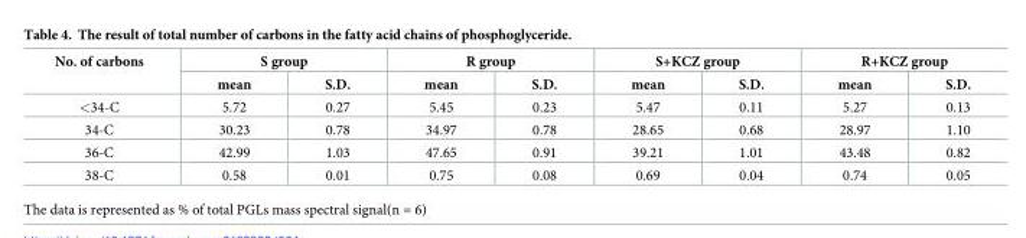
<table><thead><tr><td rowspan="2">No. of carbons</td><td colspan="2">S group</td><td colspan="2">R group</td><td colspan="2">S+KCZ group</td><td colspan="2">R+KCZ group</td></tr><tr><td>mean</td><td>S.D.</td><td>mean</td><td>S.D.</td><td>mean</td><td>S.D.</td><td>mean</td><td>S.D.</td></tr></thead><tbody><tr><td>&lt;34-C</td><td>5.72</td><td>0.27</td><td>5.45</td><td>0.23</td><td>5.47</td><td>0.11</td><td>5.27</td><td>0.13</td></tr><tr><td>34-C</td><td>30.23</td><td>0.78</td><td>34.97</td><td>0.78</td><td>28.65</td><td>0.68</td><td>28.97</td><td>1.10</td></tr><tr><td>36-C</td><td>42.99</td><td>1.03</td><td>47.65</td><td>0.91</td><td>39.21</td><td>1.01</td><td>43.48</td><td>0.82</td></tr><tr><td>38-C</td><td>0.58</td><td>0.01</td><td>0.75</td><td>0.08</td><td>0.69</td><td>0.04</td><td>0.74</td><td>0.05</td></tr></tbody></table>